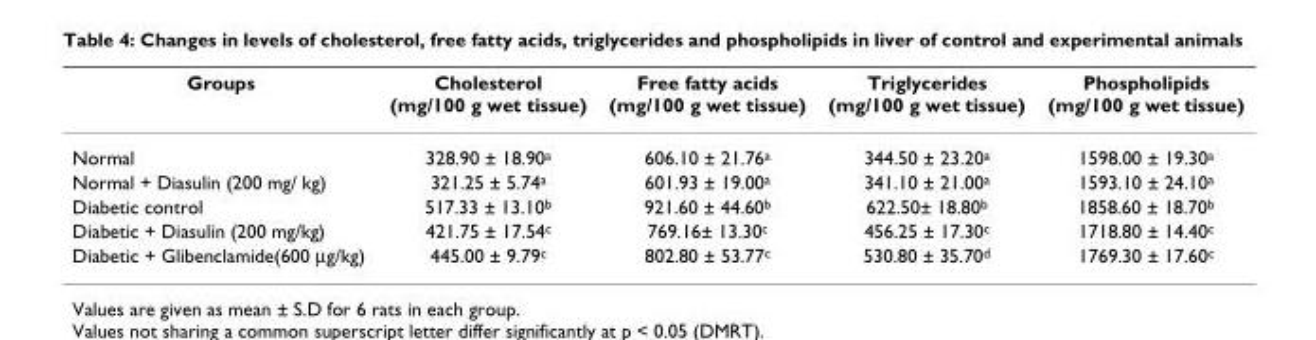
<table><thead><tr><td>Groups</td><td>Cholesterol (mg/100 g wet tissue)</td><td>Free fatty acids (mg/100 g wet tissue)</td><td>Triglycerides (mg/100 g wet tissue)</td><td>Phospholipids (mg/100 g wet tissue)</td></tr></thead><tbody><tr><td>Normal</td><td>328.90 ± 18.90<sup>a</sup></td><td>606.10 ± 21.76<sup>a</sup></td><td>344.50 ± 23.20<sup>a</sup></td><td>1598.00 ± 19.30<sup>a</sup></td></tr><tr><td>Normal + Diasulin (200 mg/ kg)</td><td>321.25 ± 5.74<sup>a</sup></td><td>601.93 ± 19.00<sup>a</sup></td><td>341.10 ± 21.00<sup>a</sup></td><td>1593.10 ± 24.10<sup>a</sup></td></tr><tr><td>Diabetic control</td><td>517.33 ± 13.10<sup>b</sup></td><td>921.60 ± 44.60<sup>b</sup></td><td>622.50± 18.80<sup>b</sup></td><td>1858.60 ± 18.70<sup>b</sup></td></tr><tr><td>Diabetic + Diasulin (200 mg/kg)</td><td>421.75 ± 17.54<sup>c</sup></td><td>769.16± 13.30<sup>c</sup></td><td>456.25 ± 17.30<sup>c</sup></td><td>1718.80 ± 14.40<sup>c</sup></td></tr><tr><td>Diabetic + Glibenclamide(600 µg/kg)</td><td>445.00 ± 9.79<sup>c</sup></td><td>802.80 ± 53.77<sup>c</sup></td><td>530.80 ± 35.70<sup>d</sup></td><td>1769.30 ± 17.60<sup>c</sup></td></tr></tbody></table>